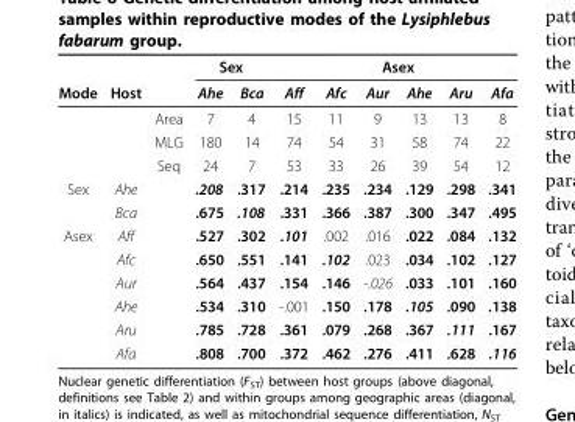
<table><thead><tr><td rowspan="2">Mode</td><td rowspan="2">Host</td><td rowspan="2"></td><td colspan="2">Sex</td><td colspan="6">Asex</td></tr><tr><td>Ahe</td><td>Bca</td><td>Aff</td><td>Afc</td><td>Aur</td><td>Ahe</td><td>Aru</td><td>Afa</td></tr></thead><tbody><tr><td></td><td></td><td>Area</td><td>7</td><td>4</td><td>15</td><td>11</td><td>9</td><td>13</td><td>13</td><td>8</td></tr><tr><td></td><td></td><td>MLG</td><td>180</td><td>14</td><td>74</td><td>54</td><td>31</td><td>58</td><td>74</td><td>22</td></tr><tr><td></td><td></td><td>Seq</td><td>24</td><td>7</td><td>53</td><td>33</td><td>26</td><td>39</td><td>54</td><td>12</td></tr><tr><td rowspan="2">Sex</td><td>Ahe</td><td></td><td>.208</td><td>.317</td><td>.214</td><td>.235</td><td>.234</td><td>.129</td><td>.298</td><td>.341</td></tr><tr><td>Bca</td><td></td><td>.675</td><td>.108</td><td>.331</td><td>.366</td><td>.387</td><td>.300</td><td>.347</td><td>.495</td></tr><tr><td rowspan="6">Asex</td><td>Aff</td><td></td><td>.527</td><td>.302</td><td>.101</td><td>.002</td><td>.016</td><td>.022</td><td>.084</td><td>.132</td></tr><tr><td>Afc</td><td></td><td>.650</td><td>.551</td><td>.141</td><td>.102</td><td>.023</td><td>.034</td><td>.102</td><td>.127</td></tr><tr><td>Aur</td><td></td><td>.564</td><td>.437</td><td>.154</td><td>.146</td><td>-.026</td><td>.033</td><td>.101</td><td>.160</td></tr><tr><td>Ahe</td><td></td><td>.534</td><td>.310</td><td>-.001</td><td>.150</td><td>.178</td><td>.105</td><td>.090</td><td>.138</td></tr><tr><td>Aru</td><td></td><td>.785</td><td>.728</td><td>.361</td><td>.079</td><td>.268</td><td>.367</td><td>.111</td><td>.167</td></tr><tr><td>Afa</td><td></td><td>.808</td><td>.700</td><td>.372</td><td>.462</td><td>.276</td><td>.411</td><td>.628</td><td>.116</td></tr></tbody></table>